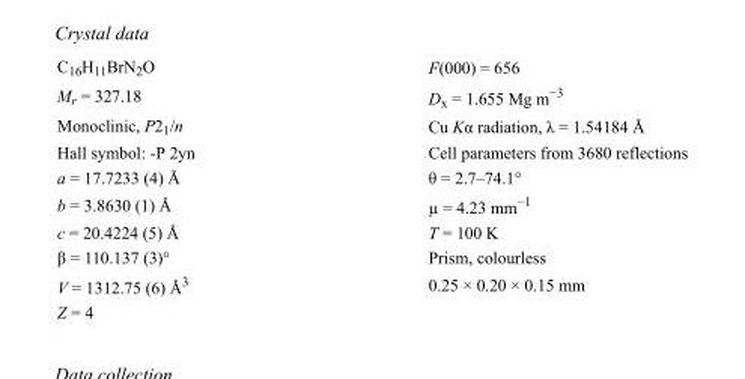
<table><tbody><tr><td>C<sub>16</sub>H<sub>11</sub>BrN<sub>2</sub>O</td><td>F(000) = 656</td></tr><tr><td>M<sub>r</sub> = 327.18</td><td>D<sub>x</sub> = 1.655 Mg m<sup>−3</sup></td></tr><tr><td>Monoclinic, P2<sub>1</sub>/n</td><td>Cu Kα radiation, λ = 1.54184 Å</td></tr><tr><td>Hall symbol: -P 2yn</td><td>Cell parameters from 3680 reflections</td></tr><tr><td>a = 17.7233 (4) Å</td><td>θ = 2.7–74.1°</td></tr><tr><td>b = 3.8630 (1) Å</td><td>µ = 4.23 mm<sup>−1</sup></td></tr><tr><td>c = 20.4224 (5) Å</td><td>T = 100 K</td></tr><tr><td>β = 110.137 (3)°</td><td>Prism, colourless</td></tr><tr><td>V = 1312.75 (6) Å<sup>3</sup></td><td>0.25 × 0.20 × 0.15 mm</td></tr><tr><td>Z = 4</td><td></td></tr></tbody></table>